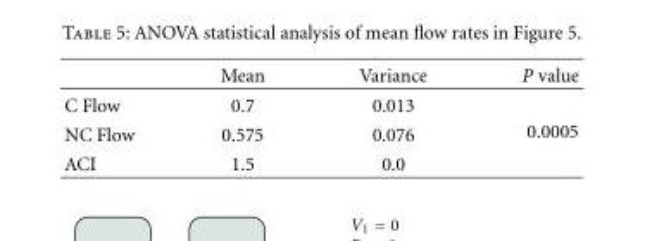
<table><thead><tr><td></td><td>Mean</td><td>Variance</td><td>P value</td></tr></thead><tbody><tr><td>C Flow</td><td>0.7</td><td>0.013</td><td rowspan="3">0.0005</td></tr><tr><td>NC Flow</td><td>0.575</td><td>0.076</td></tr><tr><td>ACI</td><td>1.5</td><td>0.0</td></tr></tbody></table>